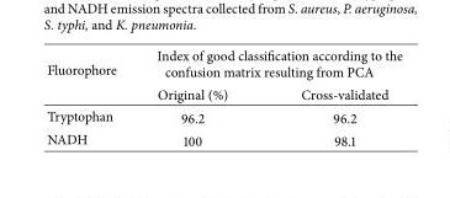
<table><thead><tr><td rowspan="2">Fluorophore</td><td colspan="2">Index of good classification according to the confusion matrix resulting from PCA</td></tr><tr><td>Original (%)</td><td>Cross-validated</td></tr></thead><tbody><tr><td>Tryptophan</td><td>96.2</td><td>96.2</td></tr><tr><td>NADH</td><td>100</td><td>98.1</td></tr></tbody></table>